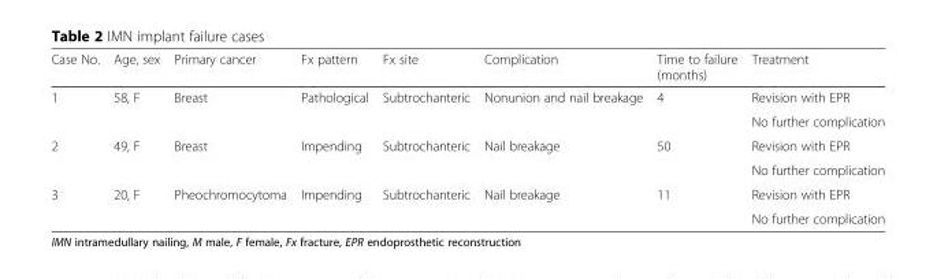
<table><thead><tr><td>Case No.</td><td>Age, sex</td><td>Primary cancer</td><td>Fx pattern</td><td>Fx site</td><td>Complication</td><td>Time to failure (months)</td><td>Treatment</td></tr></thead><tbody><tr><td rowspan="2">1</td><td rowspan="2">58, F</td><td rowspan="2">Breast</td><td rowspan="2">Pathological</td><td rowspan="2">Subtrochanteric</td><td rowspan="2">Nonunion and nail breakage</td><td rowspan="2">4</td><td>Revision with EPR</td></tr><tr><td>No further complication</td></tr><tr><td rowspan="2">2</td><td rowspan="2">49, F</td><td rowspan="2">Breast</td><td rowspan="2">Impending</td><td rowspan="2">Subtrochanteric</td><td rowspan="2">Nail breakage</td><td rowspan="2">50</td><td>Revision with EPR</td></tr><tr><td>No further complication</td></tr><tr><td rowspan="2">3</td><td rowspan="2">20, F</td><td rowspan="2">Pheochromocytoma</td><td rowspan="2">Impending</td><td rowspan="2">Subtrochanteric</td><td rowspan="2">Nail breakage</td><td rowspan="2">11</td><td>Revision with EPR</td></tr><tr><td>No further complication</td></tr></tbody></table>